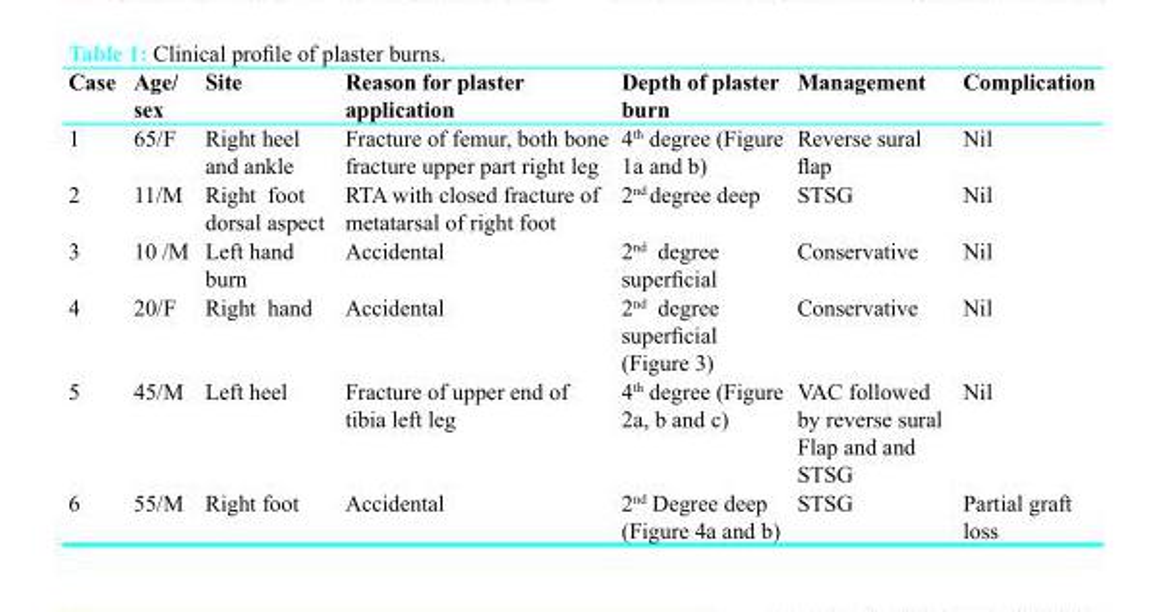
<table><thead><tr><td>Case</td><td>Age/ sex</td><td>Site</td><td>Reason for plaster application</td><td>Depth of plaster burn</td><td>Management</td><td>Complication</td></tr></thead><tbody><tr><td>1</td><td>65/F</td><td>Right heel and ankle</td><td>Fracture of femur, both bone fracture upper part right leg</td><td>4<sup>th</sup> degree (Figure 1a and b)</td><td>Reverse sural flap</td><td>Nil</td></tr><tr><td>2</td><td>11/M</td><td>Right foot dorsal aspect</td><td>RTA with closed fracture of metatarsal of right foot</td><td>2<sup>nd</sup> degree deep</td><td>STSG</td><td>Nil</td></tr><tr><td>3</td><td>10 /M</td><td>Left hand burn</td><td>Accidental</td><td>2<sup>nd</sup> degree superficial</td><td>Conservative</td><td>Nil</td></tr><tr><td>4</td><td>20/F</td><td>Right hand</td><td>Accidental</td><td>2<sup>nd</sup> degree superficial (Figure 3)</td><td>Conservative</td><td>Nil</td></tr><tr><td>5</td><td>45/M</td><td>Left heel</td><td>Fracture of upper end of tibia left leg</td><td>4<sup>th</sup> degree (Figure 2a, b and c)</td><td>VAC followed by reverse sural Flap and and STSG</td><td>Nil</td></tr><tr><td>6</td><td>55/M</td><td>Right foot</td><td>Accidental</td><td>2<sup>nd</sup> Degree deep (Figure 4a and b)</td><td>STSG</td><td>Partial graft loss</td></tr></tbody></table>